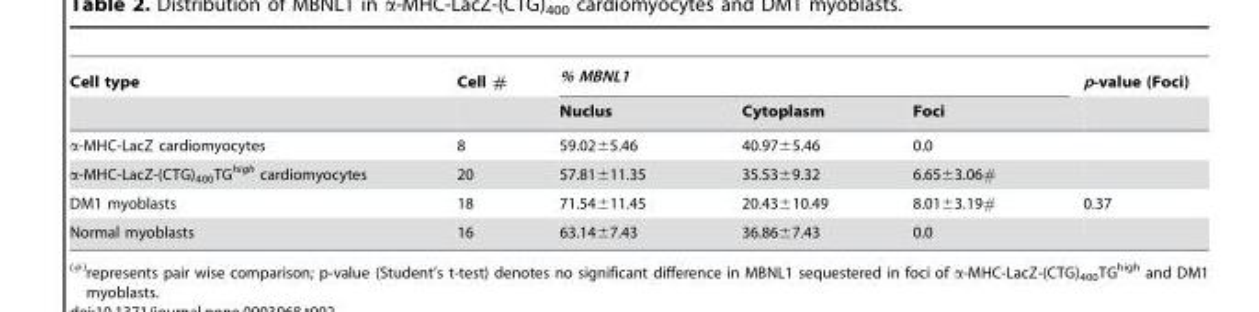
<table><thead><tr><td rowspan="2">Cell type</td><td rowspan="2">Cell #</td><td colspan="3">% MBNL1</td><td rowspan="2">p-value (Foci)</td></tr><tr><td>Nuclus</td><td>Cytoplasm</td><td>Foci</td></tr></thead><tbody><tr><td>α-MHC-LacZ cardiomyocytes</td><td>8</td><td>59.02±5.46</td><td>40.97±5.46</td><td>0.0</td><td></td></tr><tr><td>α-MHC-LacZ-(CTG)<sub>400</sub>TG<sup>high</sup> cardiomyocytes</td><td>20</td><td>57.81±11.35</td><td>35.53±9.32</td><td>6.65±3.06#</td><td></td></tr><tr><td>DM1 myoblasts</td><td>18</td><td>71.54±11.45</td><td>20.43±10.49</td><td>8.01±3.19#</td><td>0.37</td></tr><tr><td>Normal myoblasts</td><td>16</td><td>63.14±7.43</td><td>36.86±7.43</td><td>0.0</td><td></td></tr></tbody></table>